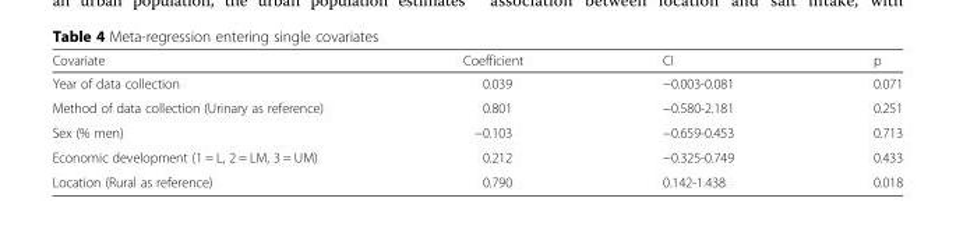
<table><thead><tr><td>Covariate</td><td>Coefficient</td><td>CI</td><td>p</td></tr></thead><tbody><tr><td>Year of data collection</td><td>0.039</td><td>−0.003-0.081</td><td>0.071</td></tr><tr><td>Method of data collection (Urinary as reference)</td><td>0.801</td><td>−0.580-2.181</td><td>0.251</td></tr><tr><td>Sex (% men)</td><td>−0.103</td><td>−0.659-0.453</td><td>0.713</td></tr><tr><td>Economic development (1 = L, 2 = LM, 3 = UM)</td><td>0.212</td><td>−0.325-0.749</td><td>0.433</td></tr><tr><td>Location (Rural as reference)</td><td>0.790</td><td>0.142-1.438</td><td>0.018</td></tr></tbody></table>